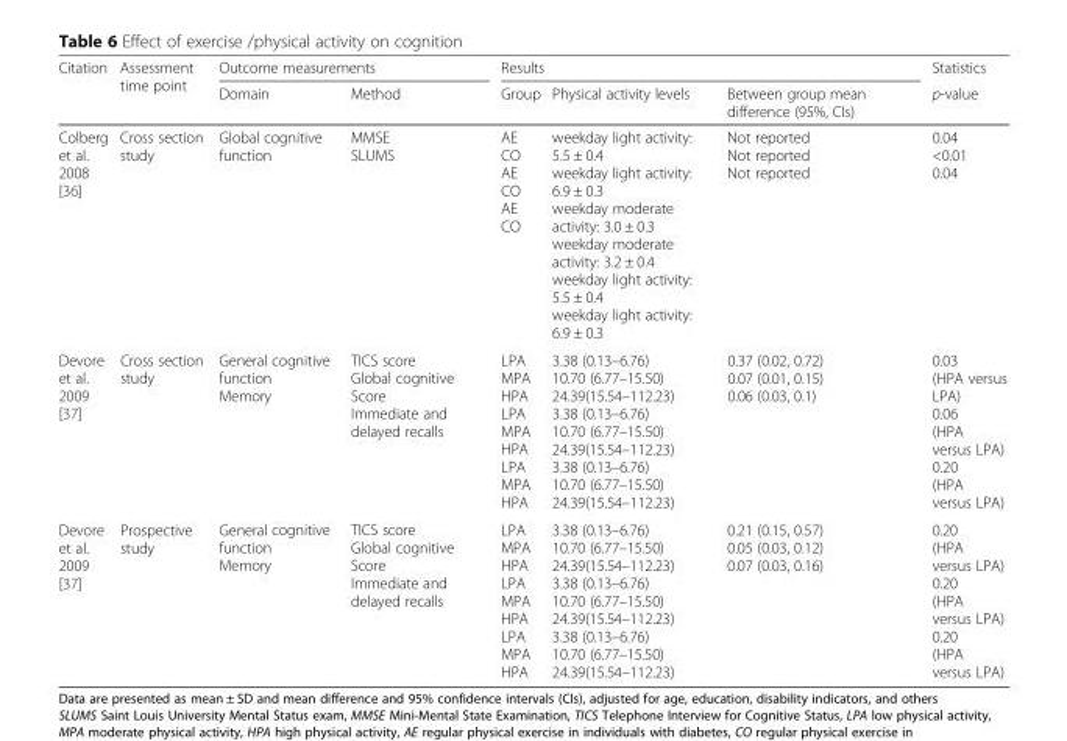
<table><thead><tr><td rowspan="2">Citation</td><td rowspan="2">Assessment time point</td><td colspan="2">Outcome measurements</td><td colspan="3">Results</td><td rowspan="2">Statistics p-value</td></tr><tr><td>Domain</td><td>Method</td><td>Group</td><td>Physical activity levels</td><td>Between group mean difference (95%, CIs)</td></tr></thead><tbody><tr><td>Colberg et al. 2008 [36]</td><td>Cross section study</td><td>Global cognitive function</td><td>MMSE SLUMS</td><td>AE CO AE CO AE CO</td><td>weekday light activity: 5.5 ± 0.4 weekday light activity: 6.9 ± 0.3 weekday moderate activity: 3.0 ± 0.3 weekday moderate activity: 3.2 ± 0.4 weekday light activity: 5.5 ± 0.4 weekday light activity: 6.9 ± 0.3</td><td>Not reported Not reported Not reported</td><td>0.04 &lt;0.01 0.04</td></tr><tr><td>Devore et al. 2009 [37]</td><td>Cross section study</td><td>General cognitive function Memory</td><td>TICS score Global cognitive Score Immediate and delayed recalls</td><td>LPA MPA HPA LPA MPA HPA LPA MPA HPA</td><td>3.38 (0.13–6.76) 10.70 (6.77–15.50) 24.39(15.54–112.23) 3.38 (0.13–6.76) 10.70 (6.77–15.50) 24.39(15.54–112.23) 3.38 (0.13–6.76) 10.70 (6.77–15.50) 24.39(15.54–112.23)</td><td>0.37 (0.02, 0.72) 0.07 (0.01, 0.15) 0.06 (0.03, 0.1)</td><td>0.03 (HPA versus LPA) 0.06 (HPA versus LPA) 0.20 (HPA versus LPA)</td></tr><tr><td>Devore et al. 2009 [37]</td><td>Prospective study</td><td>General cognitive function Memory</td><td>TICS score Global cognitive Score Immediate and delayed recalls</td><td>LPA MPA HPA LPA MPA HPA LPA MPA HPA</td><td>3.38 (0.13–6.76) 10.70 (6.77–15.50) 24.39(15.54–112.23) 3.38 (0.13–6.76) 10.70 (6.77–15.50) 24.39(15.54–112.23) 3.38 (0.13–6.76) 10.70 (6.77–15.50) 24.39(15.54–112.23)</td><td>0.21 (0.15, 0.57) 0.05 (0.03, 0.12) 0.07 (0.03, 0.16)</td><td>0.20 (HPA versus LPA) 0.20 (HPA versus LPA) 0.20 (HPA versus LPA)</td></tr></tbody></table>